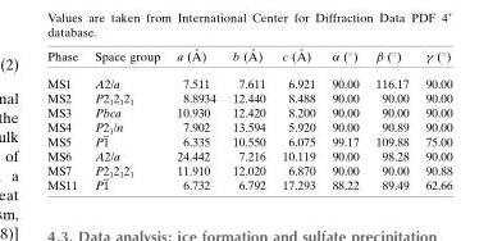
<table><thead><tr><td>Phase</td><td>Space group</td><td>a (A˚ )</td><td>b (A˚ )</td><td>c (A˚ )</td><td>α (°)</td><td>β (°)</td><td>γ (°)</td></tr></thead><tbody><tr><td>MS1</td><td>A2/a</td><td>7.511</td><td>7.611</td><td>6.921</td><td>90.00</td><td>116.17</td><td>90.00</td></tr><tr><td>MS2</td><td>P2<sub>1</sub>2<sub>1</sub>2<sub>1</sub></td><td>8.8934</td><td>12.440</td><td>8.488</td><td>90.00</td><td>90.00</td><td>90.00</td></tr><tr><td>MS3</td><td>Pbca</td><td>10.930</td><td>12.420</td><td>8.200</td><td>90.00</td><td>90.00</td><td>90.00</td></tr><tr><td>MS4</td><td>P2<sub>1</sub>/n</td><td>7.902</td><td>13.594</td><td>5.920</td><td>90.00</td><td>90.89</td><td>90.00</td></tr><tr><td>MS5</td><td>P1</td><td>6.335</td><td>10.550</td><td>6.075</td><td>99.17</td><td>109.88</td><td>75.00</td></tr><tr><td>MS6</td><td>A2/a</td><td>24.442</td><td>7.216</td><td>10.119</td><td>90.00</td><td>98.28</td><td>90.00</td></tr><tr><td>MS7</td><td>P2<sub>1</sub>2<sub>1</sub>2<sub>1</sub></td><td>11.910</td><td>12.020</td><td>6.870</td><td>90.00</td><td>90.00</td><td>90.88</td></tr><tr><td>MS11</td><td>P1</td><td>6.732</td><td>6.792</td><td>17.293</td><td>88.22</td><td>89.49</td><td>62.66</td></tr></tbody></table>